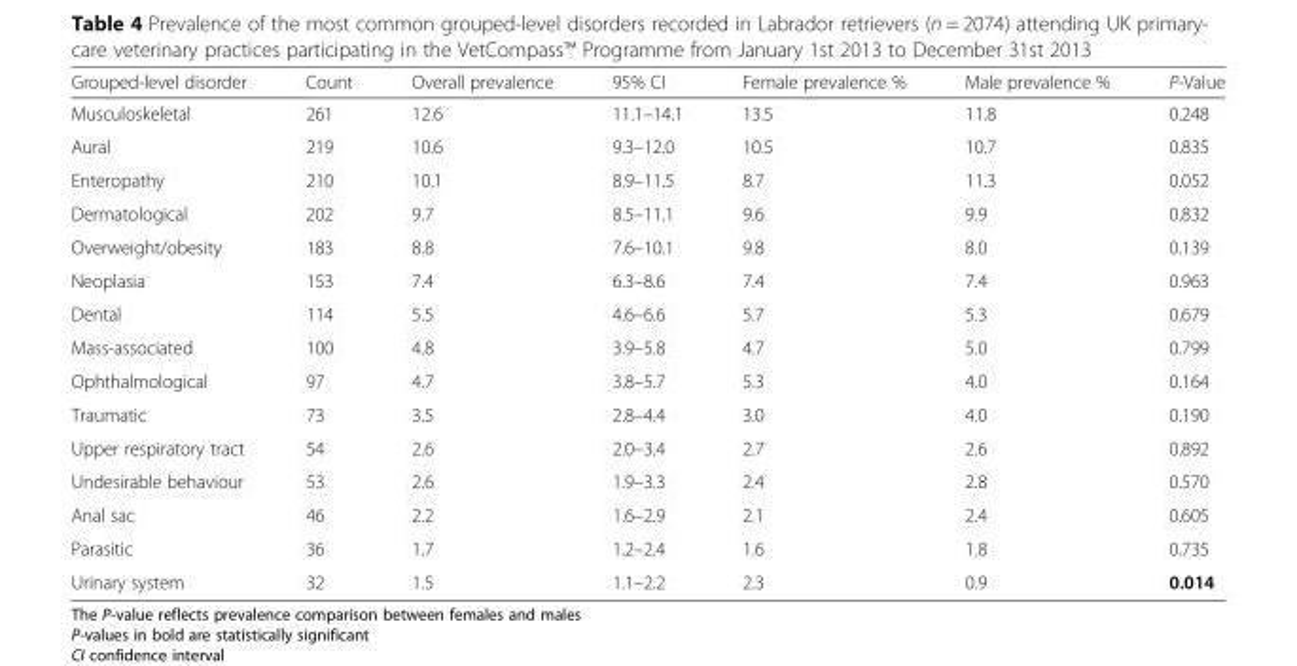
<table><thead><tr><td>Grouped-level disorder</td><td>Count</td><td>Overall prevalence</td><td>95% CI</td><td>Female prevalence %</td><td>Male prevalence %</td><td>P-Value</td></tr></thead><tbody><tr><td>Musculoskeletal</td><td>261</td><td>12.6</td><td>11.1–14.1</td><td>13.5</td><td>11.8</td><td>0.248</td></tr><tr><td>Aural</td><td>219</td><td>10.6</td><td>9.3–12.0</td><td>10.5</td><td>10.7</td><td>0.835</td></tr><tr><td>Enteropathy</td><td>210</td><td>10.1</td><td>8.9–11.5</td><td>8.7</td><td>11.3</td><td>0.052</td></tr><tr><td>Dermatological</td><td>202</td><td>9.7</td><td>8.5–11.1</td><td>9.6</td><td>9.9</td><td>0.832</td></tr><tr><td>Overweight/obesity</td><td>183</td><td>8.8</td><td>7.6–10.1</td><td>9.8</td><td>8.0</td><td>0.139</td></tr><tr><td>Neoplasia</td><td>153</td><td>7.4</td><td>6.3–8.6</td><td>7.4</td><td>7.4</td><td>0.963</td></tr><tr><td>Dental</td><td>114</td><td>5.5</td><td>4.6–6.6</td><td>5.7</td><td>5.3</td><td>0.679</td></tr><tr><td>Mass-associated</td><td>100</td><td>4.8</td><td>3.9–5.8</td><td>4.7</td><td>5.0</td><td>0.799</td></tr><tr><td>Ophthalmological</td><td>97</td><td>4.7</td><td>3.8–5.7</td><td>5.3</td><td>4.0</td><td>0.164</td></tr><tr><td>Traumatic</td><td>73</td><td>3.5</td><td>2.8–4.4</td><td>3.0</td><td>4.0</td><td>0.190</td></tr><tr><td>Upper respiratory tract</td><td>54</td><td>2.6</td><td>2.0–3.4</td><td>2.7</td><td>2.6</td><td>0.892</td></tr><tr><td>Undesirable behaviour</td><td>53</td><td>2.6</td><td>1.9–3.3</td><td>2.4</td><td>2.8</td><td>0.570</td></tr><tr><td>Anal sac</td><td>46</td><td>2.2</td><td>1.6–2.9</td><td>2.1</td><td>2.4</td><td>0.605</td></tr><tr><td>Parasitic</td><td>36</td><td>1.7</td><td>1.2–2.4</td><td>1.6</td><td>1.8</td><td>0.735</td></tr><tr><td>Urinary system</td><td>32</td><td>1.5</td><td>1.1–2.2</td><td>2.3</td><td>0.9</td><td>0.014</td></tr></tbody></table>